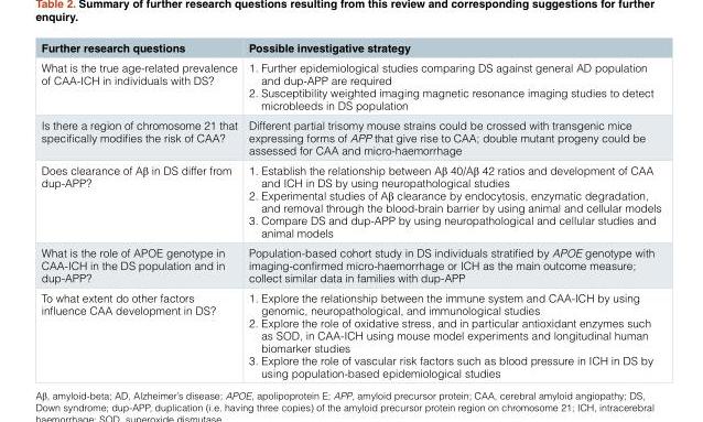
<table><thead><tr><td>Further research questions</td><td>Possible investigative strategy</td></tr></thead><tbody><tr><td>What is the true age-related prevalence of CAA-ICH in individuals with DS?</td><td>1. Further epidemiological studies comparing DS against general AD population and dup-APP are required 2. Susceptibility weighted imaging magnetic resonance imaging studies to detect microbleeds in DS population</td></tr><tr><td>Is there a region of chromosome 21 that specifically modifies the risk of CAA?</td><td>Different partial trisomy mouse strains could be crossed with transgenic mice expressing forms of APP that give rise to CAA; double mutant progeny could be assessed for CAA and micro-haemorrhage</td></tr><tr><td>Does clearance of Aβ in DS differ from dup-APP?</td><td>1. Establish the relationship between Aβ 40/Aβ 42 ratios and development of CAA and ICH in DS by using neuropathological studies 2. Experimental studies of Aβ clearance by endocytosis, enzymatic degradation, and removal through the blood-brain barrier by using animal and cellular models 3. Compare DS and dup-APP by using neuropathological and cellular studies and animal models</td></tr><tr><td>What is the role of APOE genotype in CAA-ICH in the DS population and in dup-APP?</td><td>Population-based cohort study in DS individuals stratified by APOE genotype with imaging-confirmed micro-haemorrhage or ICH as the main outcome measure; collect similar data in families with dup-APP</td></tr><tr><td>To what extent do other factors influence CAA development in DS?</td><td>1. Explore the relationship between the immune system and CAA-ICH by using genomic, neuropathological, and immunological studies 2. Explore the role of oxidative stress, and in particular antioxidant enzymes such as SOD, in CAA-ICH using mouse model experiments and longitudinal human biomarker studies 3. Explore the role of vascular risk factors such as blood pressure in ICH in DS by using population-based epidemiological studies</td></tr></tbody></table>